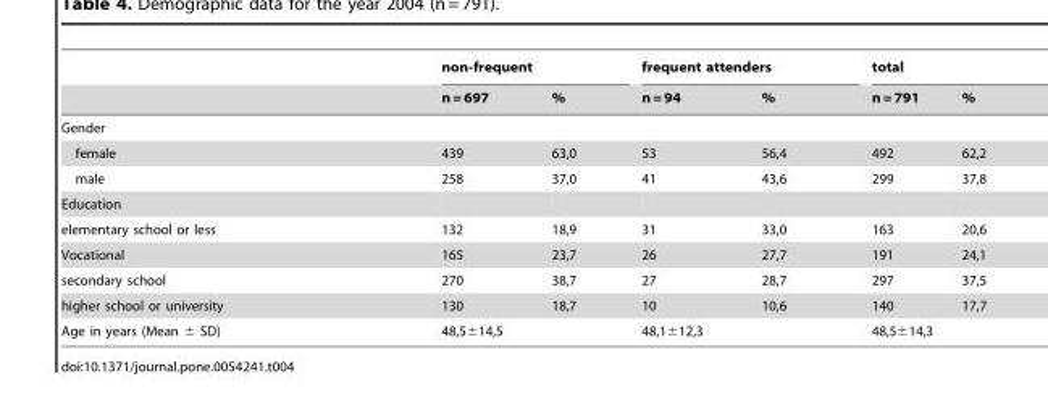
<table><thead><tr><td rowspan="2"></td><td colspan="2">non-frequent</td><td colspan="2">frequent attenders</td><td colspan="2">total</td></tr><tr><td>n = 697</td><td>%</td><td>n = 94</td><td>%</td><td>n = 791</td><td>%</td></tr></thead><tbody><tr><td colspan="7">Gender</td></tr><tr><td>female</td><td>439</td><td>63,0</td><td>53</td><td>56,4</td><td>492</td><td>62,2</td></tr><tr><td>male</td><td>258</td><td>37,0</td><td>41</td><td>43,6</td><td>299</td><td>37,8</td></tr><tr><td colspan="7">Education</td></tr><tr><td>elementary school or less</td><td>132</td><td>18,9</td><td>31</td><td>33,0</td><td>163</td><td>20,6</td></tr><tr><td>Vocational</td><td>165</td><td>23,7</td><td>26</td><td>27,7</td><td>191</td><td>24,1</td></tr><tr><td>secondary school</td><td>270</td><td>38,7</td><td>27</td><td>28,7</td><td>297</td><td>37,5</td></tr><tr><td>higher school or university</td><td>130</td><td>18,7</td><td>10</td><td>10,6</td><td>140</td><td>17,7</td></tr><tr><td>Age in years (Mean ± SD)</td><td colspan="2">48,5±14,5</td><td colspan="2">48,1±12,3</td><td colspan="2">48,5±14,3</td></tr></tbody></table>